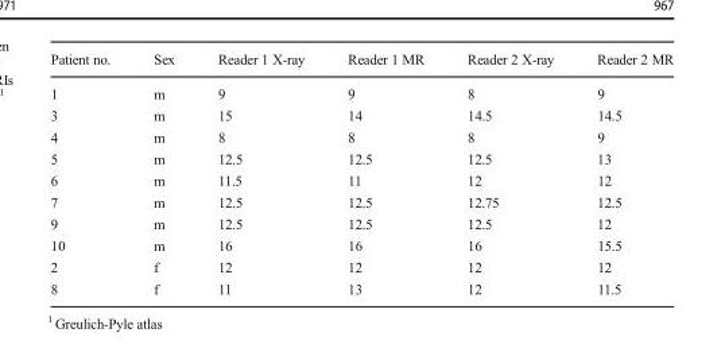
<table><thead><tr><td>Patient no.</td><td>Sex</td><td>Reader 1 X-ray</td><td>Reader 1 MR</td><td>Reader 2 X-ray</td><td>Reader 2 MR</td></tr></thead><tbody><tr><td>1</td><td>m</td><td>9</td><td>9</td><td>8</td><td>9</td></tr><tr><td>3</td><td>m</td><td>15</td><td>14</td><td>14.5</td><td>14.5</td></tr><tr><td>4</td><td>m</td><td>8</td><td>8</td><td>8</td><td>9</td></tr><tr><td>5</td><td>m</td><td>12.5</td><td>12.5</td><td>12.5</td><td>13</td></tr><tr><td>6</td><td>m</td><td>11.5</td><td>11</td><td>12</td><td>12</td></tr><tr><td>7</td><td>m</td><td>12.5</td><td>12.5</td><td>12.75</td><td>12.5</td></tr><tr><td>9</td><td>m</td><td>12.5</td><td>12.5</td><td>12.5</td><td>12</td></tr><tr><td>10</td><td>m</td><td>16</td><td>16</td><td>16</td><td>15.5</td></tr><tr><td>2</td><td>f</td><td>12</td><td>12</td><td>12</td><td>12</td></tr><tr><td>8</td><td>f</td><td>11</td><td>13</td><td>12</td><td>11.5</td></tr></tbody></table>